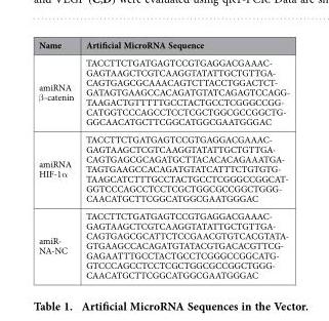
<table><thead><tr><td>Name</td><td>Artificial MicroRNA Sequence</td></tr></thead><tbody><tr><td>amiRNA β -catenin</td><td>TACCTTCTGATGAGTCCGTGAGGACGAAAC- GAGTAAGCTCGTCAAGGTATATTGCTGTTGA- CAGTGAGCGCAAACAGTCTTACCTGGACTCT- GATAGTGAAGCCACAGATGTATCAGAGTCCAGG- TAAGACTGTTTTTGCCTACTGCCTCGGGCCGG- CATGGTCCCAGCCTCCTCGCTGGCGCCGGCTG- GGCAACATGCTTCGGCATGGCGAATGGGAC</td></tr><tr><td>amiRNA HIF-1α</td><td>TACCTTCTGATGAGTCCGTGAGGACGAAAC- GAGTAAGCTCGTCAAGGTATATTGCTGTTGA- CAGTGAGCGCAGATGCTTACACACAGAAATGA- TAGTGAAGCCACAGATGTATCATTTCTGTGTG- TAAGCATCTTTGCCTACTGCCTCGGGCCGGCAT- GGTCCCAGCCTCCTCGCTGGCGCCGGCTGGG- CAACATGCTTCGGCATGGCGAATGGGAC</td></tr><tr><td>amiR- NA-NC</td><td>TACCTTCTGATGAGTCCGTGAGGACGAAAC- GAGTAAGCTCGTCAAGGTATATTGCTGTTGA- CAGTGAGCGCATTCTCCGAACGTGTCACGTATA- GTGAAGCCACAGATGTATACGTGACACGTTCG- GAGAATTTGCCTACTGCCTCGGGCCGGCATG- GTCCCAGCCTCCTCGCTGGCGCCGGCTGGG- CAACATGCTTCGGCATGGCGAATGGGAC</td></tr></tbody></table>